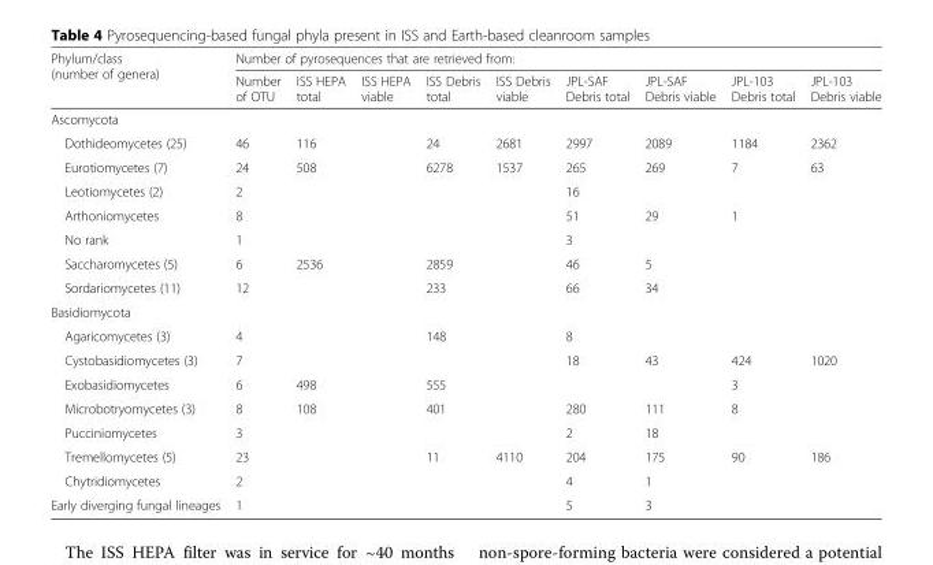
<table><thead><tr><td rowspan="2">Phylum/class (number of genera)</td><td colspan="9">Number of pyrosequences that are retrieved from:</td></tr><tr><td>Number of OTU</td><td>ISS HEPA total</td><td>ISS HEPA viable</td><td>ISS Debris total</td><td>ISS Debris viable</td><td>JPL-SAF Debris total</td><td>JPL-SAF Debris viable</td><td>JPL-103 Debris total</td><td>JPL-103 Debris viable</td></tr></thead><tbody><tr><td colspan="10">Ascomycota</td></tr><tr><td>Dothideomycetes (25)</td><td>46</td><td>116</td><td></td><td>24</td><td>2681</td><td>2997</td><td>2089</td><td>1184</td><td>2362</td></tr><tr><td>Eurotiomycetes (7)</td><td>24</td><td>508</td><td></td><td>6278</td><td>1537</td><td>265</td><td>269</td><td>7</td><td>63</td></tr><tr><td>Leotiomycetes (2)</td><td>2</td><td></td><td></td><td></td><td></td><td>16</td><td></td><td></td><td></td></tr><tr><td>Arthoniomycetes</td><td>8</td><td></td><td></td><td></td><td></td><td>51</td><td>29</td><td>1</td><td></td></tr><tr><td>No rank</td><td>1</td><td></td><td></td><td></td><td></td><td>3</td><td></td><td></td><td></td></tr><tr><td>Saccharomycetes (5)</td><td>6</td><td>2536</td><td></td><td>2859</td><td></td><td>46</td><td>5</td><td></td><td></td></tr><tr><td>Sordariomycetes (11)</td><td>12</td><td></td><td></td><td>233</td><td></td><td>66</td><td>34</td><td></td><td></td></tr><tr><td colspan="10">Basidiomycota</td></tr><tr><td>Agaricomycetes (3)</td><td>4</td><td></td><td></td><td>148</td><td></td><td>8</td><td></td><td></td><td></td></tr><tr><td>Cystobasidiomycetes (3)</td><td>7</td><td></td><td></td><td></td><td></td><td>18</td><td>43</td><td>424</td><td>1020</td></tr><tr><td>Exobasidiomycetes</td><td>6</td><td>498</td><td></td><td>555</td><td></td><td></td><td></td><td>3</td><td></td></tr><tr><td>Microbotryomycetes (3)</td><td>8</td><td>108</td><td></td><td>401</td><td></td><td>280</td><td>111</td><td>8</td><td></td></tr><tr><td>Pucciniomycetes</td><td>3</td><td></td><td></td><td></td><td></td><td>2</td><td>18</td><td></td><td></td></tr><tr><td>Tremellomycetes (5)</td><td>23</td><td></td><td></td><td>11</td><td>4110</td><td>204</td><td>175</td><td>90</td><td>186</td></tr><tr><td>Chytridiomycetes</td><td>2</td><td></td><td></td><td></td><td></td><td>4</td><td>1</td><td></td><td></td></tr><tr><td>Early diverging fungal lineages</td><td>1</td><td></td><td></td><td></td><td></td><td>5</td><td>3</td><td></td><td></td></tr></tbody></table>